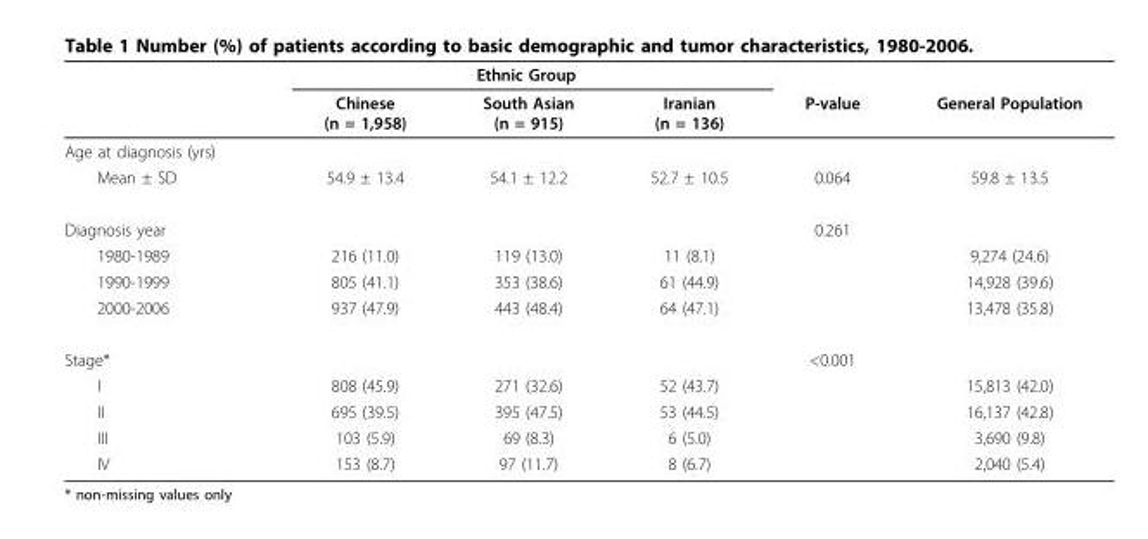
<table><thead><tr><td rowspan="2"></td><td colspan="3">Ethnic Group</td><td rowspan="2">P-value</td><td rowspan="2">General Population</td></tr><tr><td>Chinese (n = 1,958)</td><td>South Asian (n = 915)</td><td>Iranian (n = 136)</td></tr></thead><tbody><tr><td colspan="6">Age at diagnosis (yrs)</td></tr><tr><td>Mean ± SD</td><td>54.9 ± 13.4</td><td>54.1 ± 12.2</td><td>52.7 ± 10.5</td><td>0.064</td><td>59.8 ± 13.5</td></tr><tr><td>Diagnosis year</td><td></td><td></td><td></td><td>0.261</td><td></td></tr><tr><td>1980-1989</td><td>216 (11.0)</td><td>119 (13.0)</td><td>11 (8.1)</td><td></td><td>9,274 (24.6)</td></tr><tr><td>1990-1999</td><td>805 (41.1)</td><td>353 (38.6)</td><td>61 (44.9)</td><td></td><td>14,928 (39.6)</td></tr><tr><td>2000-2006</td><td>937 (47.9)</td><td>443 (48.4)</td><td>64 (47.1)</td><td></td><td>13,478 (35.8)</td></tr><tr><td>Stage*</td><td></td><td></td><td></td><td>&lt;0.001</td><td></td></tr><tr><td>I</td><td>808 (45.9)</td><td>271 (32.6)</td><td>52 (43.7)</td><td></td><td>15,813 (42.0)</td></tr><tr><td>II</td><td>695 (39.5)</td><td>395 (47.5)</td><td>53 (44.5)</td><td></td><td>16,137 (42.8)</td></tr><tr><td>III</td><td>103 (5.9)</td><td>69 (8.3)</td><td>6 (5.0)</td><td></td><td>3,690 (9.8)</td></tr><tr><td>IV</td><td>153 (8.7)</td><td>97 (11.7)</td><td>8 (6.7)</td><td></td><td>2,040 (5.4)</td></tr></tbody></table>